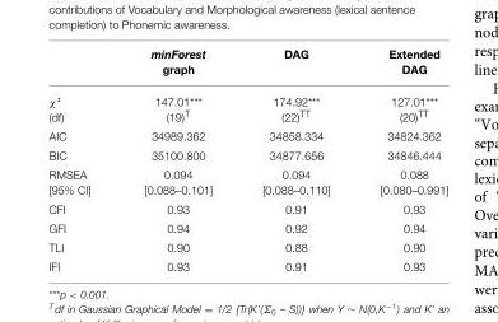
<table><thead><tr><td></td><td>minForest graph</td><td>DAG</td><td>Extended DAG</td></tr></thead><tbody><tr><td>χ² (df)</td><td>147.01*** (19)<sup>T</sup></td><td>174.92*** (22)<sup>TT</sup></td><td>127.01*** (20)<sup>TT</sup></td></tr><tr><td>AIC</td><td>34989.362</td><td>34858.334</td><td>34824.362</td></tr><tr><td>BIC</td><td>35100.800</td><td>34877.656</td><td>34846.444</td></tr><tr><td>RMSEA [95% CI]</td><td>0.094 [0.088–0.101]</td><td>0.094 [0.088–0.110]</td><td>0.088 [0.080–0.991]</td></tr><tr><td>CFI</td><td>0.93</td><td>0.91</td><td>0.93</td></tr><tr><td>GFI</td><td>0.94</td><td>0.92</td><td>0.94</td></tr><tr><td>TLI</td><td>0.90</td><td>0.88</td><td>0.90</td></tr><tr><td>IFI</td><td>0.93</td><td>0.91</td><td>0.93</td></tr></tbody></table>